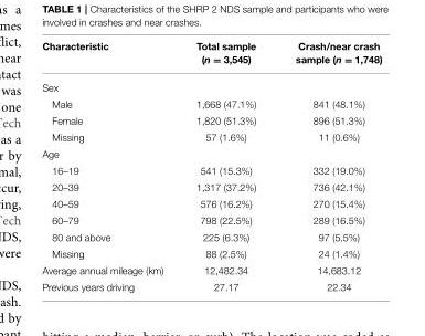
<table><thead><tr><td>Characteristic</td><td>Total sample (n = 3,545)</td><td>Crash/near crash sample (n = 1,748)</td></tr></thead><tbody><tr><td colspan="3">Sex</td></tr><tr><td>Male</td><td>1,668 (47.1%)</td><td>841 (48.1%)</td></tr><tr><td>Female</td><td>1,820 (51.3%)</td><td>896 (51.3%)</td></tr><tr><td>Missing</td><td>57 (1.6%)</td><td>11 (0.6%)</td></tr><tr><td colspan="3">Age</td></tr><tr><td>16–19</td><td>541 (15.3%)</td><td>332 (19.0%)</td></tr><tr><td>20–39</td><td>1,317 (37.2%)</td><td>736 (42.1%)</td></tr><tr><td>40–59</td><td>576 (16.2%)</td><td>270 (15.4%)</td></tr><tr><td>60–79</td><td>798 (22.5%)</td><td>289 (16.5%)</td></tr><tr><td>80 and above</td><td>225 (6.3%)</td><td>97 (5.5%)</td></tr><tr><td>Missing</td><td>88 (2.5%)</td><td>24 (1.4%)</td></tr><tr><td>Average annual mileage (km)</td><td>12,482.34</td><td>14,683.12</td></tr><tr><td>Previous years driving</td><td>27.17</td><td>22.34</td></tr></tbody></table>